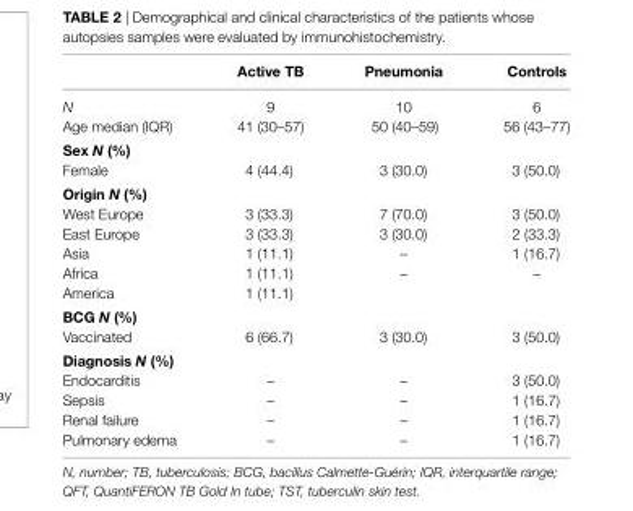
<table><thead><tr><td></td><td>active TB</td><td>Pneumonia</td><td>controls</td></tr></thead><tbody><tr><td>N</td><td>9</td><td>10</td><td>6</td></tr><tr><td>Age median (IQR)</td><td>41 (30–57)</td><td>50 (40–59)</td><td>56 (43–77)</td></tr><tr><td colspan="4">sex N (%)</td></tr><tr><td>Female</td><td>4 (44.4)</td><td>3 (30.0)</td><td>3 (50.0)</td></tr><tr><td colspan="4">Origin N (%)</td></tr><tr><td>West Europe</td><td>3 (33.3)</td><td>7 (70.0)</td><td>3 (50.0)</td></tr><tr><td>East Europe</td><td>3 (33.3)</td><td>3 (30.0)</td><td>2 (33.3)</td></tr><tr><td>Asia</td><td>1 (11.1)</td><td>–</td><td>1 (16.7)</td></tr><tr><td>Africa</td><td>1 (11.1)</td><td>–</td><td>–</td></tr><tr><td>America</td><td>1 (11.1)</td><td></td><td></td></tr><tr><td colspan="4">Bcg N (%)</td></tr><tr><td>Vaccinated</td><td>6 (66.7)</td><td>3 (30.0)</td><td>3 (50.0)</td></tr><tr><td colspan="4">Diagnosis N (%)</td></tr><tr><td>Endocarditis</td><td>–</td><td>–</td><td>3 (50.0)</td></tr><tr><td>Sepsis</td><td>–</td><td>–</td><td>1 (16.7)</td></tr><tr><td>Renal failure</td><td>–</td><td>–</td><td>1 (16.7)</td></tr><tr><td>Pulmonary edema</td><td>–</td><td>–</td><td>1 (16.7)</td></tr></tbody></table>